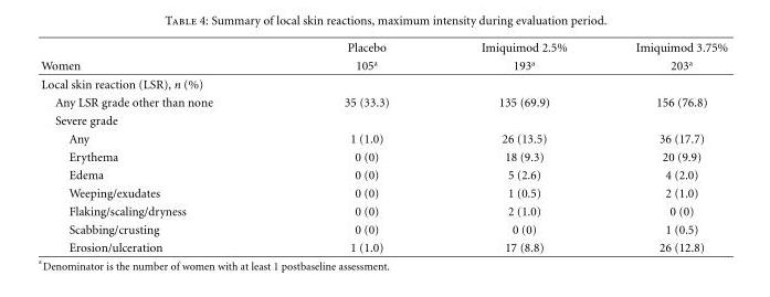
<table><thead><tr><td rowspan="2">Women</td><td rowspan="2">Placebo 105<sup>a</sup></td><td rowspan="2">Imiquimod 2.5% 193<sup>a</sup></td><td rowspan="2">Imiquimod 3.75% 203<sup>a</sup></td></tr><tr></tr></thead><tbody><tr><td colspan="4">Local skin reaction (LSR), n (%)</td></tr><tr><td>Any LSR grade other than none</td><td>35 (33.3)</td><td>135 (69.9)</td><td>156 (76.8)</td></tr><tr><td colspan="4">Severe grade</td></tr><tr><td>Any</td><td>1 (1.0)</td><td>26 (13.5)</td><td>36 (17.7)</td></tr><tr><td>Erythema</td><td>0 (0)</td><td>18 (9.3)</td><td>20 (9.9)</td></tr><tr><td>Edema</td><td>0 (0)</td><td>5 (2.6)</td><td>4 (2.0)</td></tr><tr><td>Weeping/exudates</td><td>0 (0)</td><td>1 (0.5)</td><td>2 (1.0)</td></tr><tr><td>Flaking/scaling/dryness</td><td>0 (0)</td><td>2 (1.0)</td><td>0 (0)</td></tr><tr><td>Scabbing/crusting</td><td>0 (0)</td><td>0 (0)</td><td>1 (0.5)</td></tr><tr><td>Erosion/ulceration</td><td>1 (1.0)</td><td>17 (8.8)</td><td>26 (12.8)</td></tr></tbody></table>